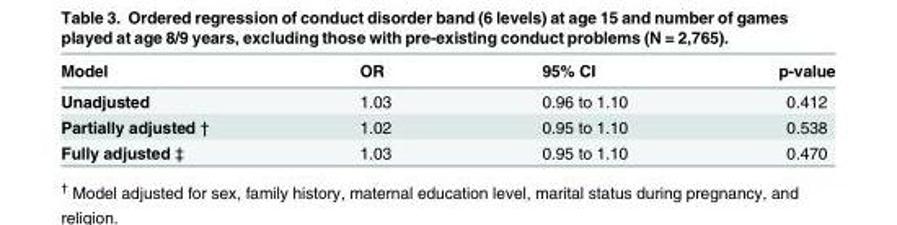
<table><thead><tr><td>Model</td><td>OR</td><td>95% CI</td><td>p-value</td></tr></thead><tbody><tr><td>Unadjusted</td><td>1.03</td><td>0.96 to 1.10</td><td>0.412</td></tr><tr><td>Partially adjusted †</td><td>1.02</td><td>0.95 to 1.10</td><td>0.538</td></tr><tr><td>Fully adjusted ‡</td><td>1.03</td><td>0.95 to 1.10</td><td>0.470</td></tr></tbody></table>